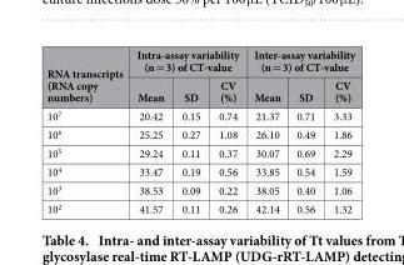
<table><thead><tr><td rowspan="2">RNA transcripts (RNA copy numbers)</td><td colspan="3">Intra-assay variability (n = 3) of CT-value</td><td colspan="3">Inter-assay variability (n = 3) of CT-value</td></tr><tr><td>Mean</td><td>SD</td><td>CV (%)</td><td>Mean</td><td>SD</td><td>CV (%)</td></tr></thead><tbody><tr><td>10<sup>7</sup></td><td>20.42</td><td>0.15</td><td>0.74</td><td>21.37</td><td>0.71</td><td>3.33</td></tr><tr><td>10<sup>6</sup></td><td>25.25</td><td>0.27</td><td>1.08</td><td>26.10</td><td>0.49</td><td>1.86</td></tr><tr><td>10<sup>5</sup></td><td>29.24</td><td>0.11</td><td>0.37</td><td>30.07</td><td>0.69</td><td>2.29</td></tr><tr><td>10<sup>4</sup></td><td>33.47</td><td>0.19</td><td>0.56</td><td>33.85</td><td>0.54</td><td>1.59</td></tr><tr><td>10<sup>3</sup></td><td>38.53</td><td>0.09</td><td>0.22</td><td>38.05</td><td>0.40</td><td>1.06</td></tr><tr><td>10<sup>2</sup></td><td>41.57</td><td>0.11</td><td>0.26</td><td>42.14</td><td>0.56</td><td>1.32</td></tr></tbody></table>